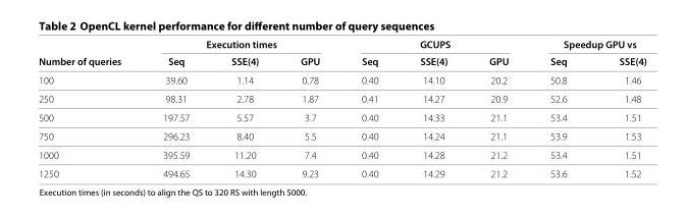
<table><thead><tr><td rowspan="2">Number of queries</td><td colspan="3">Execution times</td><td colspan="3">GCUPS</td><td colspan="2">Speedup GPU vs</td></tr><tr><td>Seq</td><td>SSE(4)</td><td>GPU</td><td>Seq</td><td>SSE(4)</td><td>GPU</td><td>Seq</td><td>SSE(4)</td></tr></thead><tbody><tr><td>100</td><td>39.60</td><td>1.14</td><td>0.78</td><td>0.40</td><td>14.10</td><td>20.2</td><td>50.8</td><td>1.46</td></tr><tr><td>250</td><td>98.31</td><td>2.78</td><td>1.87</td><td>0.41</td><td>14.27</td><td>20.9</td><td>52.6</td><td>1.48</td></tr><tr><td>500</td><td>197.57</td><td>5.57</td><td>3.7</td><td>0.40</td><td>14.33</td><td>21.1</td><td>53.4</td><td>1.51</td></tr><tr><td>750</td><td>296.23</td><td>8.40</td><td>5.5</td><td>0.40</td><td>14.24</td><td>21.1</td><td>53.9</td><td>1.53</td></tr><tr><td>1000</td><td>395.59</td><td>11.20</td><td>7.4</td><td>0.40</td><td>14.28</td><td>21.2</td><td>53.4</td><td>1.51</td></tr><tr><td>1250</td><td>494.65</td><td>14.30</td><td>9.23</td><td>0.40</td><td>14.29</td><td>21.2</td><td>53.6</td><td>1.52</td></tr></tbody></table>